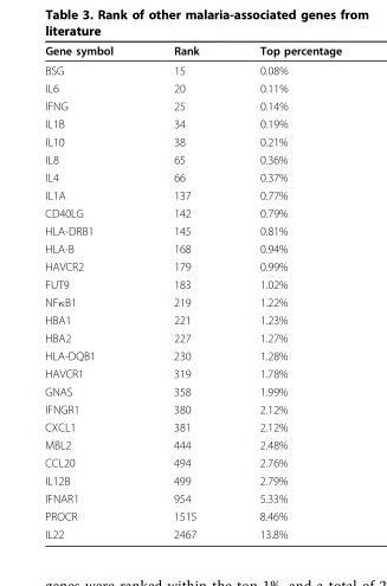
<table><thead><tr><td>Gene symbol</td><td>Rank</td><td>Top percentage</td></tr></thead><tbody><tr><td>BSG</td><td>15</td><td>0.08%</td></tr><tr><td>IL6</td><td>20</td><td>0.11%</td></tr><tr><td>IFNG</td><td>25</td><td>0.14%</td></tr><tr><td>IL1B</td><td>34</td><td>0.19%</td></tr><tr><td>IL10</td><td>38</td><td>0.21%</td></tr><tr><td>IL8</td><td>65</td><td>0.36%</td></tr><tr><td>IL4</td><td>66</td><td>0.37%</td></tr><tr><td>IL1A</td><td>137</td><td>0.77%</td></tr><tr><td>CD40LG</td><td>142</td><td>0.79%</td></tr><tr><td>HLA-DRB1</td><td>145</td><td>0.81%</td></tr><tr><td>HLA-B</td><td>168</td><td>0.94%</td></tr><tr><td>HAVCR2</td><td>179</td><td>0.99%</td></tr><tr><td>FUT9</td><td>183</td><td>1.02%</td></tr><tr><td>NFκB1</td><td>219</td><td>1.22%</td></tr><tr><td>HBA1</td><td>221</td><td>1.23%</td></tr><tr><td>HBA2</td><td>227</td><td>1.27%</td></tr><tr><td>HLA-DQB1</td><td>230</td><td>1.28%</td></tr><tr><td>HAVCR1</td><td>319</td><td>1.78%</td></tr><tr><td>GNAS</td><td>358</td><td>1.99%</td></tr><tr><td>IFNGR1</td><td>380</td><td>2.12%</td></tr><tr><td>CXCL1</td><td>381</td><td>2.12%</td></tr><tr><td>MBL2</td><td>444</td><td>2.48%</td></tr><tr><td>CCL20</td><td>494</td><td>2.76%</td></tr><tr><td>IL12B</td><td>499</td><td>2.79%</td></tr><tr><td>IFNAR1</td><td>954</td><td>5.33%</td></tr><tr><td>PROCR</td><td>1515</td><td>8.46%</td></tr><tr><td>IL22</td><td>2467</td><td>13.8%</td></tr></tbody></table>